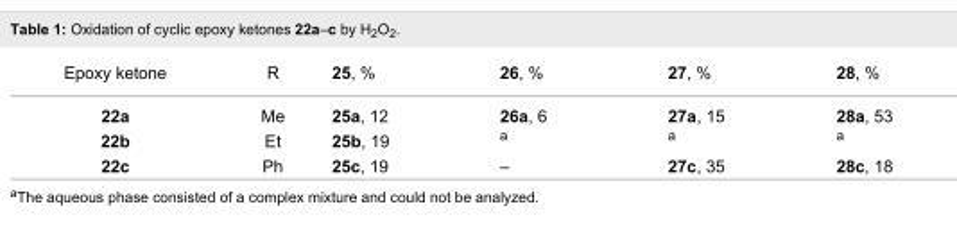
<table><tbody><tr><td>Epoxy ketone</td><td>R</td><td>25, %</td><td>26, %</td><td>27, %</td><td>28, %</td></tr><tr><td>22a</td><td>Me</td><td>25a, 12</td><td>26a, 6</td><td>27a, 15</td><td>28a, 53</td></tr><tr><td>22b</td><td>Et</td><td>25b, 19</td><td><sup>a</sup></td><td><sup>a</sup></td><td><sup>a</sup></td></tr><tr><td>22c</td><td>Ph</td><td>25c, 19</td><td>–</td><td>27c, 35</td><td>28c, 18</td></tr></tbody></table>